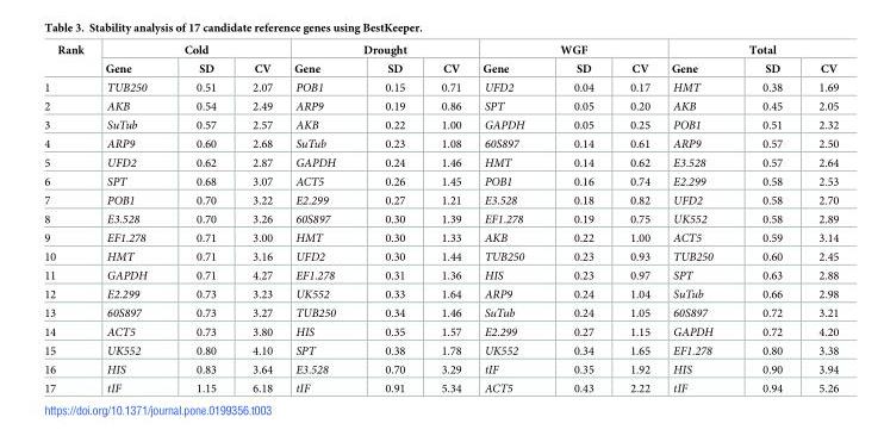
<table><thead><tr><td rowspan="2">Rank</td><td colspan="3">Cold</td><td colspan="3">Drought</td><td colspan="3">WGF</td><td colspan="3">Total</td></tr><tr><td>Gene</td><td>SD</td><td>CV</td><td>Gene</td><td>SD</td><td>CV</td><td>Gene</td><td>SD</td><td>CV</td><td>Gene</td><td>SD</td><td>CV</td></tr></thead><tbody><tr><td>1</td><td>TUB250</td><td>0.51</td><td>2.07</td><td>POB1</td><td>0.15</td><td>0.71</td><td>UFD2</td><td>0.04</td><td>0.17</td><td>HMT</td><td>0.38</td><td>1.69</td></tr><tr><td>2</td><td>AKB</td><td>0.54</td><td>2.49</td><td>ARP9</td><td>0.19</td><td>0.86</td><td>SPT</td><td>0.05</td><td>0.20</td><td>AKB</td><td>0.45</td><td>2.05</td></tr><tr><td>3</td><td>SuTub</td><td>0.57</td><td>2.57</td><td>AKB</td><td>0.22</td><td>1.00</td><td>GAPDH</td><td>0.05</td><td>0.25</td><td>POB1</td><td>0.51</td><td>2.32</td></tr><tr><td>4</td><td>ARP9</td><td>0.60</td><td>2.68</td><td>SuTub</td><td>0.23</td><td>1.08</td><td>60S897</td><td>0.14</td><td>0.61</td><td>ARP9</td><td>0.57</td><td>2.50</td></tr><tr><td>5</td><td>UFD2</td><td>0.62</td><td>2.87</td><td>GAPDH</td><td>0.24</td><td>1.46</td><td>HMT</td><td>0.14</td><td>0.62</td><td>E3.528</td><td>0.57</td><td>2.64</td></tr><tr><td>6</td><td>SPT</td><td>0.68</td><td>3.07</td><td>ACT5</td><td>0.26</td><td>1.45</td><td>POB1</td><td>0.16</td><td>0.74</td><td>E2.299</td><td>0.58</td><td>2.53</td></tr><tr><td>7</td><td>POB1</td><td>0.70</td><td>3.22</td><td>E2.299</td><td>0.27</td><td>1.21</td><td>E3.528</td><td>0.18</td><td>0.82</td><td>UFD2</td><td>0.58</td><td>2.70</td></tr><tr><td>8</td><td>E3.528</td><td>0.70</td><td>3.26</td><td>60S897</td><td>0.30</td><td>1.39</td><td>EF1.278</td><td>0.19</td><td>0.75</td><td>UK552</td><td>0.58</td><td>2.89</td></tr><tr><td>9</td><td>EF1.278</td><td>0.71</td><td>3.00</td><td>HMT</td><td>0.30</td><td>1.33</td><td>AKB</td><td>0.22</td><td>1.00</td><td>ACT5</td><td>0.59</td><td>3.14</td></tr><tr><td>10</td><td>HMT</td><td>0.71</td><td>3.16</td><td>UFD2</td><td>0.30</td><td>1.44</td><td>TUB250</td><td>0.23</td><td>0.93</td><td>TUB250</td><td>0.60</td><td>2.45</td></tr><tr><td>11</td><td>GAPDH</td><td>0.71</td><td>4.27</td><td>EF1.278</td><td>0.31</td><td>1.36</td><td>HIS</td><td>0.23</td><td>0.97</td><td>SPT</td><td>0.63</td><td>2.88</td></tr><tr><td>12</td><td>E2.299</td><td>0.73</td><td>3.23</td><td>UK552</td><td>0.33</td><td>1.64</td><td>ARP9</td><td>0.24</td><td>1.04</td><td>SuTub</td><td>0.66</td><td>2.98</td></tr><tr><td>13</td><td>60S897</td><td>0.73</td><td>3.27</td><td>TUB250</td><td>0.34</td><td>1.46</td><td>SuTub</td><td>0.24</td><td>1.05</td><td>60S897</td><td>0.72</td><td>3.21</td></tr><tr><td>14</td><td>ACT5</td><td>0.73</td><td>3.80</td><td>HIS</td><td>0.35</td><td>1.57</td><td>E2.299</td><td>0.27</td><td>1.15</td><td>GAPDH</td><td>0.72</td><td>4.20</td></tr><tr><td>15</td><td>UK552</td><td>0.80</td><td>4.10</td><td>SPT</td><td>0.38</td><td>1.78</td><td>UK552</td><td>0.34</td><td>1.65</td><td>EF1.278</td><td>0.80</td><td>3.38</td></tr><tr><td>16</td><td>HIS</td><td>0.83</td><td>3.64</td><td>E3.528</td><td>0.70</td><td>3.29</td><td>tIF</td><td>0.35</td><td>1.92</td><td>HIS</td><td>0.90</td><td>3.94</td></tr><tr><td>17</td><td>tIF</td><td>1.15</td><td>6.18</td><td>tIF</td><td>0.91</td><td>5.34</td><td>ACT5</td><td>0.43</td><td>2.22</td><td>tIF</td><td>0.94</td><td>5.26</td></tr></tbody></table>